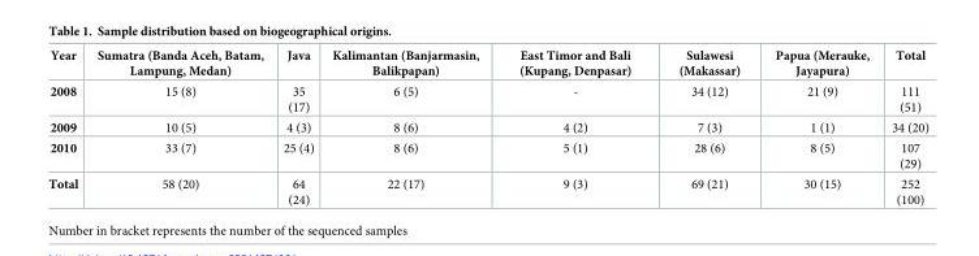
<table><thead><tr><td>Year</td><td>Sumatra (Banda Aceh, Batam, Lampung, Medan)</td><td>Java</td><td>Kalimantan (Banjarmasin, Balikpapan)</td><td>East Timor and Bali (Kupang, Denpasar)</td><td>Sulawesi (Makassar)</td><td>Papua (Merauke, Jayapura)</td><td>Total</td></tr></thead><tbody><tr><td>2008</td><td>15 (8)</td><td>35 (17)</td><td>6 (5)</td><td>-</td><td>34 (12)</td><td>21 (9)</td><td>111 (51)</td></tr><tr><td>2009</td><td>10 (5)</td><td>4 (3)</td><td>8 (6)</td><td>4 (2)</td><td>7 (3)</td><td>1 (1)</td><td>34 (20)</td></tr><tr><td>2010</td><td>33 (7)</td><td>25 (4)</td><td>8 (6)</td><td>5 (1)</td><td>28 (6)</td><td>8 (5)</td><td>107 (29)</td></tr><tr><td>Total</td><td>58 (20)</td><td>64 (24)</td><td>22 (17)</td><td>9 (3)</td><td>69 (21)</td><td>30 (15)</td><td>252 (100)</td></tr></tbody></table>